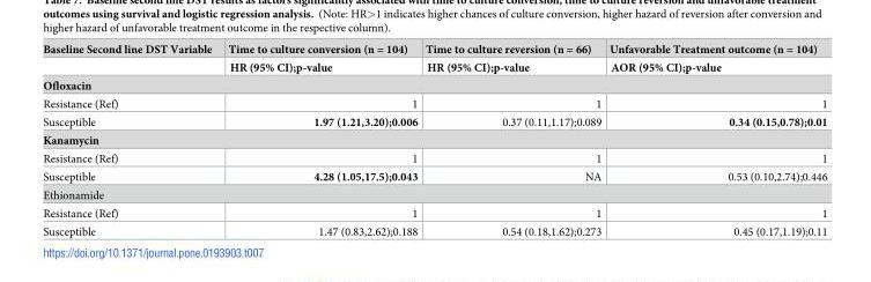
<table><thead><tr><td>Baseline Second line DST Variable</td><td>Time to culture conversion (n = 104)</td><td>Time to culture reversion (n = 66)</td><td>Unfavorable Treatment outcome (n = 104)</td></tr></thead><tbody><tr><td></td><td>HR (95% CI);p-value</td><td>HR (95% CI);p-value</td><td>AOR (95% CI);p-value</td></tr><tr><td colspan="4">Ofloxacin</td></tr><tr><td>Resistance (Ref)</td><td>1</td><td>1</td><td>1</td></tr><tr><td>Susceptible</td><td>1.97 (1.21,3.20);0.006</td><td>0.37 (0.11,1.17);0.089</td><td>0.34 (0.15,0.78);0.01</td></tr><tr><td colspan="4">Kanamycin</td></tr><tr><td>Resistance (Ref)</td><td>1</td><td>1</td><td>1</td></tr><tr><td>Susceptible</td><td>4.28 (1.05,17.5);0.043</td><td>NA</td><td>0.53 (0.10,2.74);0.446</td></tr><tr><td colspan="4">Ethionamide</td></tr><tr><td>Resistance (Ref)</td><td>1</td><td>1</td><td>1</td></tr><tr><td>Susceptible</td><td>1.47 (0.83,2.62);0.188</td><td>0.54 (0.18,1.62);0.273</td><td>0.45 (0.17,1.19);0.11</td></tr></tbody></table>